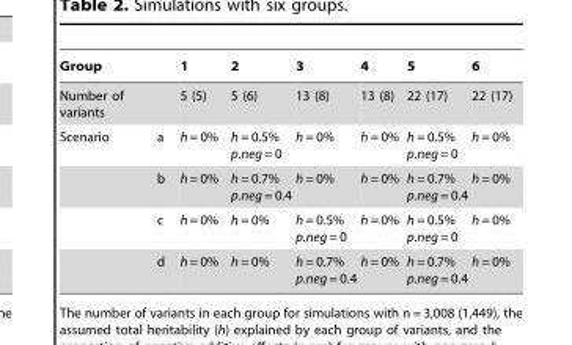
<table><thead><tr><td>Group</td><td></td><td>1</td><td>2</td><td>3</td><td>4</td><td>5</td><td>6</td></tr></thead><tbody><tr><td>Number of variants</td><td></td><td>5 (5)</td><td>5 (6)</td><td>13 (8)</td><td>13 (8)</td><td>22 (17)</td><td>22 (17)</td></tr><tr><td rowspan="4">Scenario</td><td>a</td><td>h = 0%</td><td>h = 0.5% p.neg = 0</td><td>h = 0%</td><td>h = 0%</td><td>h = 0.5% p.neg = 0</td><td>h = 0%</td></tr><tr><td>b</td><td>h = 0%</td><td>h = 0.7% p.neg = 0.4</td><td>h = 0%</td><td>h = 0%</td><td>h = 0.7% p.neg = 0.4</td><td>h = 0%</td></tr><tr><td>c</td><td>h = 0%</td><td>h = 0%</td><td>h = 0.5% p.neg = 0</td><td>h = 0%</td><td>h = 0.5% p.neg = 0</td><td>h = 0%</td></tr><tr><td>d</td><td>h = 0%</td><td>h = 0%</td><td>h = 0.7% p.neg = 0.4</td><td>h = 0%</td><td>h = 0.7% p.neg = 0.4</td><td>h = 0%</td></tr></tbody></table>